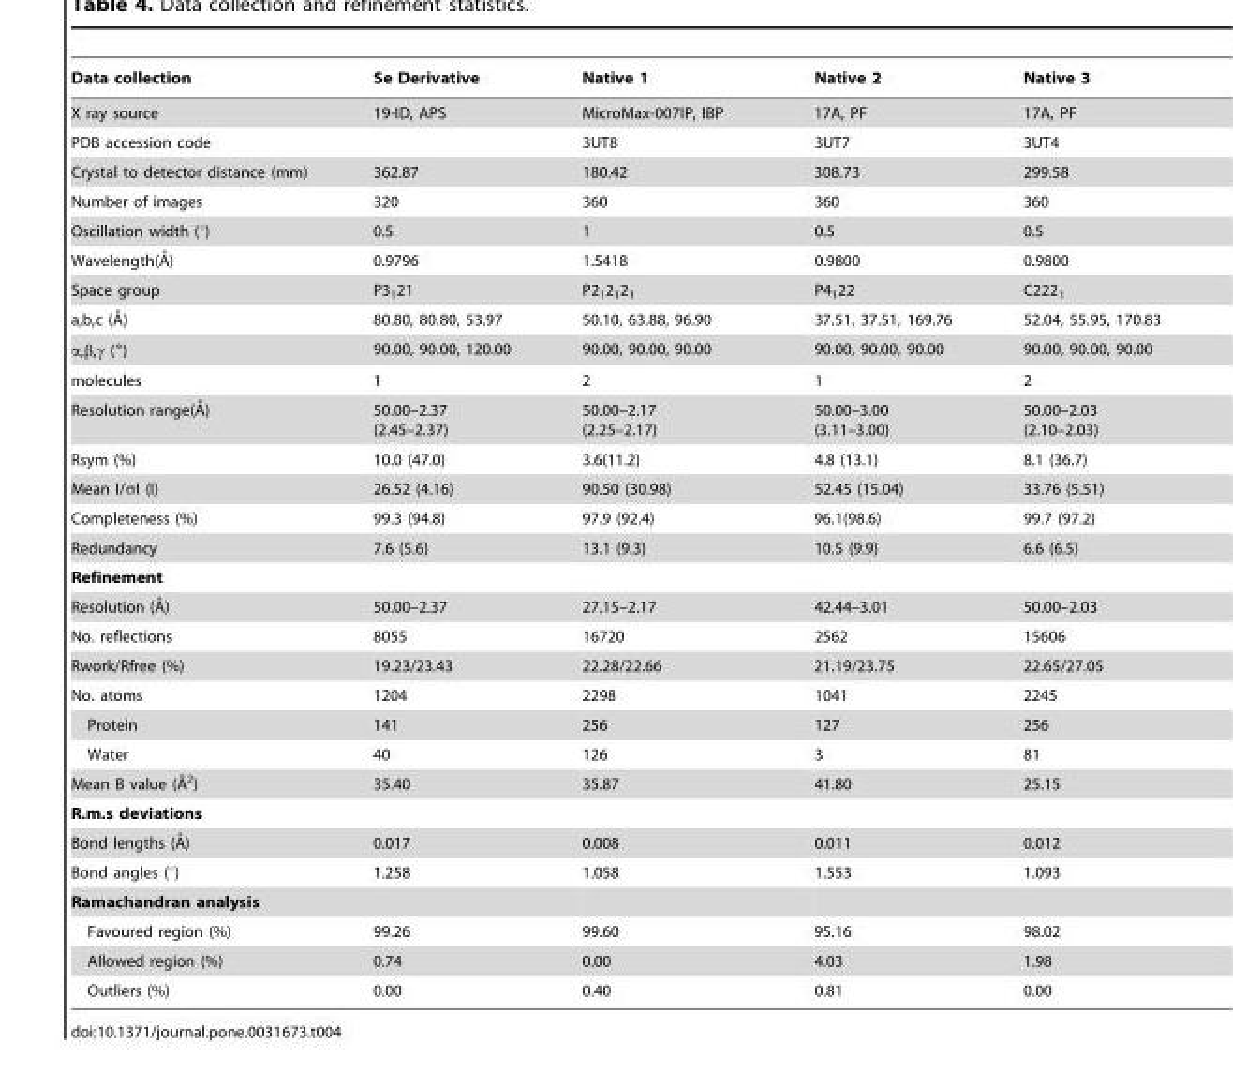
<table><thead><tr><td>Data collection</td><td>Se Derivative</td><td>Native 1</td><td>Native 2</td><td>Native 3</td></tr></thead><tbody><tr><td>X ray source</td><td>19-ID, APS</td><td>MicroMax-007IP, IBP</td><td>17A, PF</td><td>17A, PF</td></tr><tr><td>PDB accession code</td><td></td><td>3UT8</td><td>3UT7</td><td>3UT4</td></tr><tr><td>Crystal to detector distance (mm)</td><td>362.87</td><td>180.42</td><td>308.73</td><td>299.58</td></tr><tr><td>Number of images</td><td>320</td><td>360</td><td>360</td><td>360</td></tr><tr><td>Oscillation width (°)</td><td>0.5</td><td>1</td><td>0.5</td><td>0.5</td></tr><tr><td>Wavelength(A˚)</td><td>0.9796</td><td>1.5418</td><td>0.9800</td><td>0.9800</td></tr><tr><td>Space group</td><td>P3<sub>1</sub>21</td><td>P2<sub>1</sub>2<sub>1</sub>2<sub>1</sub></td><td>P4<sub>1</sub>22</td><td>C222<sub>1</sub></td></tr><tr><td>a,b,c (A˚)</td><td>80.80, 80.80, 53.97</td><td>50.10, 63.88, 96.90</td><td>37.51, 37.51, 169.76</td><td>52.04, 55.95, 170.83</td></tr><tr><td>α,β,γ (°)</td><td>90.00, 90.00, 120.00</td><td>90.00, 90.00, 90.00</td><td>90.00, 90.00, 90.00</td><td>90.00, 90.00, 90.00</td></tr><tr><td>molecules</td><td>1</td><td>2</td><td>1</td><td>2</td></tr><tr><td>Resolution range(A˚)</td><td>50.00–2.37 (2.45–2.37)</td><td>50.00–2.17 (2.25–2.17)</td><td>50.00–3.00 (3.11–3.00)</td><td>50.00–2.03 (2.10–2.03)</td></tr><tr><td>Rsym (%)</td><td>10.0 (47.0)</td><td>3.6(11.2)</td><td>4.8 (13.1)</td><td>8.1 (36.7)</td></tr><tr><td>Mean I/σI (I)</td><td>26.52 (4.16)</td><td>90.50 (30.98)</td><td>52.45 (15.04)</td><td>33.76 (5.51)</td></tr><tr><td>Completeness (%)</td><td>99.3 (94.8)</td><td>97.9 (92.4)</td><td>96.1(98.6)</td><td>99.7 (97.2)</td></tr><tr><td>Redundancy</td><td>7.6 (5.6)</td><td>13.1 (9.3)</td><td>10.5 (9.9)</td><td>6.6 (6.5)</td></tr><tr><td colspan="5">Refinement</td></tr><tr><td>Resolution (A˚)</td><td>50.00–2.37</td><td>27.15–2.17</td><td>42.44–3.01</td><td>50.00–2.03</td></tr><tr><td>No. reflections</td><td>8055</td><td>16720</td><td>2562</td><td>15606</td></tr><tr><td>Rwork/Rfree (%)</td><td>19.23/23.43</td><td>22.28/22.66</td><td>21.19/23.75</td><td>22.65/27.05</td></tr><tr><td>No. atoms</td><td>1204</td><td>2298</td><td>1041</td><td>2245</td></tr><tr><td>Protein</td><td>141</td><td>256</td><td>127</td><td>256</td></tr><tr><td>Water</td><td>40</td><td>126</td><td>3</td><td>81</td></tr><tr><td>Mean B value (A˚2)</td><td>35.40</td><td>35.87</td><td>41.80</td><td>25.15</td></tr><tr><td colspan="5">R.m.s deviations</td></tr><tr><td>Bond lengths (A˚)</td><td>0.017</td><td>0.008</td><td>0.011</td><td>0.012</td></tr><tr><td>Bond angles (°)</td><td>1.258</td><td>1.058</td><td>1.553</td><td>1.093</td></tr><tr><td colspan="5">Ramachandran analysis</td></tr><tr><td>Favoured region (%)</td><td>99.26</td><td>99.60</td><td>95.16</td><td>98.02</td></tr><tr><td>Allowed region (%)</td><td>0.74</td><td>0.00</td><td>4.03</td><td>1.98</td></tr><tr><td>Outliers (%)</td><td>0.00</td><td>0.40</td><td>0.81</td><td>0.00</td></tr></tbody></table>